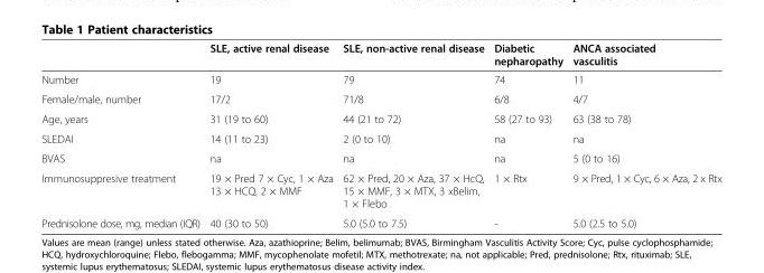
<table><thead><tr><td></td><td>SLE, active renal disease</td><td>SLE, non-active renal disease</td><td>Diabetic nepharopathy</td><td>ANCA associated vasculitis</td></tr></thead><tbody><tr><td>Number</td><td>19</td><td>79</td><td>74</td><td>11</td></tr><tr><td>Female/male, number</td><td>17/2</td><td>71/8</td><td>6/8</td><td>4/7</td></tr><tr><td>Age, years</td><td>31 (19 to 60)</td><td>44 (21 to 72)</td><td>58 (27 to 93)</td><td>63 (38 to 78)</td></tr><tr><td>SLEDAI</td><td>14 (11 to 23)</td><td>2 (0 to 10)</td><td>na</td><td>na</td></tr><tr><td>BVAS</td><td>na</td><td>na</td><td>na</td><td>5 (0 to 16)</td></tr><tr><td>Immunosuppresive treatment</td><td>19 × Pred 7 × Cyc, 1 × Aza 13 × HCQ, 2 × MMF</td><td>62 × Pred, 20 × Aza, 37 × HcQ, 15 × MMF, 3 × MTX, 3 xBelim, 1 × Flebo</td><td>1 × Rtx</td><td>9 × Pred, 1 × Cyc, 6 × Aza, 2 x Rtx</td></tr><tr><td>Prednisolone dose, mg, median (IQR)</td><td>40 (30 to 50)</td><td>5.0 (5.0 to 7.5)</td><td>-</td><td>5.0 (2.5 to 5.0)</td></tr></tbody></table>